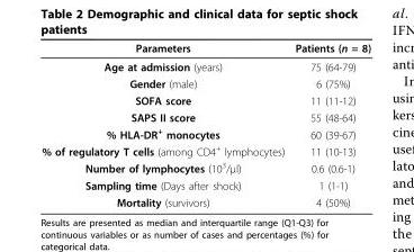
<table><thead><tr><td>Parameters</td><td>Patients (n = 8)</td></tr></thead><tbody><tr><td>Age at admission (years)</td><td>75 (64-79)</td></tr><tr><td>Gender (male)</td><td>6 (75%)</td></tr><tr><td>SOFA score</td><td>11 (11-12)</td></tr><tr><td>SAPS II score</td><td>55 (48-64)</td></tr><tr><td>% HLA-DR<sup>+</sup> monocytes</td><td>60 (39-67)</td></tr><tr><td>% of regulatory T cells (among CD4<sup>+</sup> lymphocytes)</td><td>11 (10-13)</td></tr><tr><td>Number of lymphocytes (10<sup>3</sup>/μl)</td><td>0.6 (0.6-1)</td></tr><tr><td>Sampling time (Days after shock)</td><td>1 (1-1)</td></tr><tr><td>Mortality (survivors)</td><td>4 (50%)</td></tr></tbody></table>